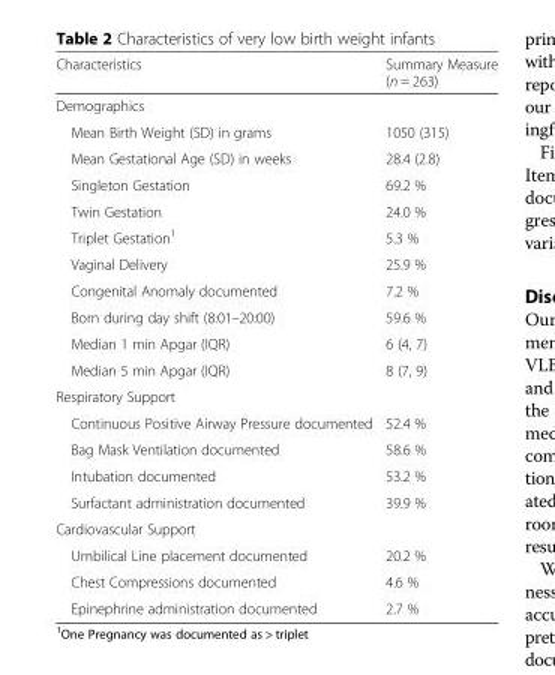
<table><thead><tr><td>Characteristics</td><td>Summary Measure (n = 263)</td></tr></thead><tbody><tr><td colspan="2">Demographics</td></tr><tr><td>Mean Birth Weight (SD) in grams</td><td>1050 (315)</td></tr><tr><td>Mean Gestational Age (SD) in weeks</td><td>28.4 (2.8)</td></tr><tr><td>Singleton Gestation</td><td>69.2 %</td></tr><tr><td>Twin Gestation</td><td>24.0 %</td></tr><tr><td>Triplet Gestation<sup>1</sup></td><td>5.3 %</td></tr><tr><td>Vaginal Delivery</td><td>25.9 %</td></tr><tr><td>Congenital Anomaly documented</td><td>7.2 %</td></tr><tr><td>Born during day shift (8:01–20:00)</td><td>59.6 %</td></tr><tr><td>Median 1 min Apgar (IQR)</td><td>6 (4, 7)</td></tr><tr><td>Median 5 min Apgar (IQR)</td><td>8 (7, 9)</td></tr><tr><td colspan="2">Respiratory Support</td></tr><tr><td>Continuous Positive Airway Pressure documented</td><td>52.4 %</td></tr><tr><td>Bag Mask Ventilation documented</td><td>58.6 %</td></tr><tr><td>Intubation documented</td><td>53.2 %</td></tr><tr><td>Surfactant administration documented</td><td>39.9 %</td></tr><tr><td colspan="2">Cardiovascular Support</td></tr><tr><td>Umbilical Line placement documented</td><td>20.2 %</td></tr><tr><td>Chest Compressions documented</td><td>4.6 %</td></tr><tr><td>Epinephrine administration documented</td><td>2.7 %</td></tr></tbody></table>